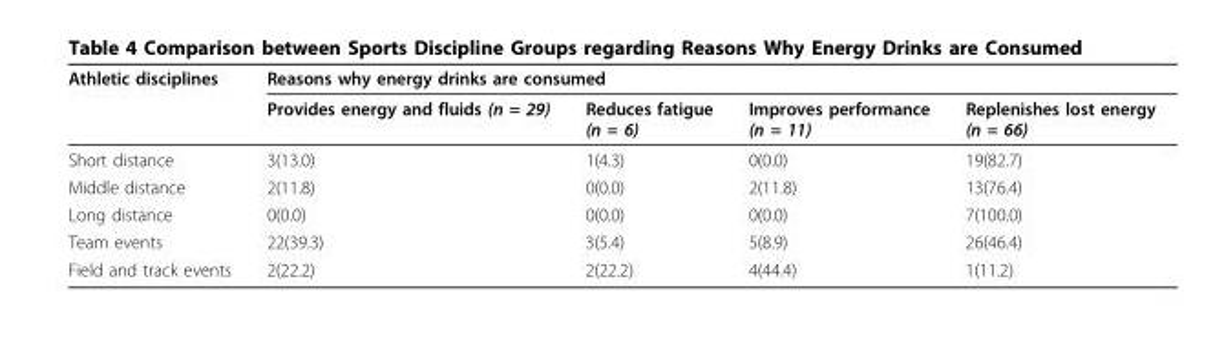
<table><thead><tr><td rowspan="2">Athletic disciplines</td><td colspan="4">Reasons why energy drinks are consumed</td></tr><tr><td>Provides energy and fluids (n = 29)</td><td>Reduces fatigue (n = 6)</td><td>Improves performance (n = 11)</td><td>Replenishes lost energy (n = 66)</td></tr></thead><tbody><tr><td>Short distance</td><td>3(13.0)</td><td>1(4.3)</td><td>0(0.0)</td><td>19(82.7)</td></tr><tr><td>Middle distance</td><td>2(11.8)</td><td>0(0.0)</td><td>2(11.8)</td><td>13(76.4)</td></tr><tr><td>Long distance</td><td>0(0.0)</td><td>0(0.0)</td><td>0(0.0)</td><td>7(100.0)</td></tr><tr><td>Team events</td><td>22(39.3)</td><td>3(5.4)</td><td>5(8.9)</td><td>26(46.4)</td></tr><tr><td>Field and track events</td><td>2(22.2)</td><td>2(22.2)</td><td>4(44.4)</td><td>1(11.2)</td></tr></tbody></table>